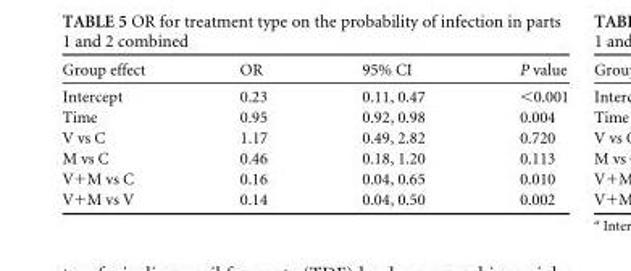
<table><thead><tr><td>Group effect</td><td>OR</td><td>95% CI</td><td>P value</td></tr></thead><tbody><tr><td>Intercept</td><td>0.23</td><td>0.11, 0.47</td><td>&lt;0.001</td></tr><tr><td>Time</td><td>0.95</td><td>0.92, 0.98</td><td>0.004</td></tr><tr><td>V vs C</td><td>1.17</td><td>0.49, 2.82</td><td>0.720</td></tr><tr><td>M vs C</td><td>0.46</td><td>0.18, 1.20</td><td>0.113</td></tr><tr><td>V+M vs C</td><td>0.16</td><td>0.04, 0.65</td><td>0.010</td></tr><tr><td>V+M vs V</td><td>0.14</td><td>0.04, 0.50</td><td>0.002</td></tr></tbody></table>